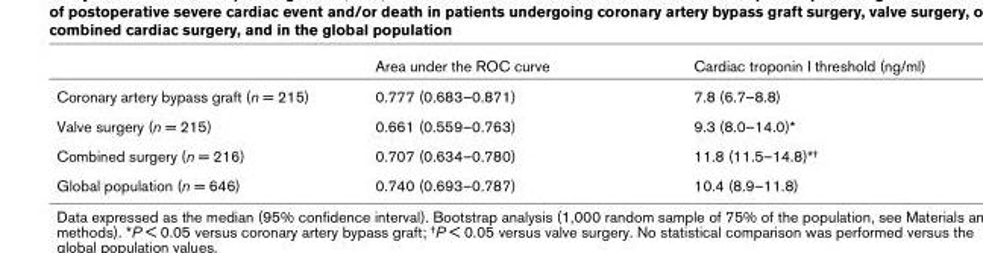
<table><thead><tr><td></td><td>Area under the ROC curve</td><td>Cardiac troponin I threshold (ng/ml)</td></tr></thead><tbody><tr><td>Coronary artery bypass graft (n = 215)</td><td>0.777 (0.683–0.871)</td><td>7.8 (6.7–8.8)</td></tr><tr><td>Valve surgery (n = 215)</td><td>0.661 (0.559–0.763)</td><td>9.3 (8.0–14.0)*</td></tr><tr><td>Combined surgery (n = 216)</td><td>0.707 (0.634–0.780)</td><td>11.8 (11.5–14.8)*<sup>†</sup></td></tr><tr><td>Global population (n = 646)</td><td>0.740 (0.693–0.787)</td><td>10.4 (8.9–11.8)</td></tr></tbody></table>